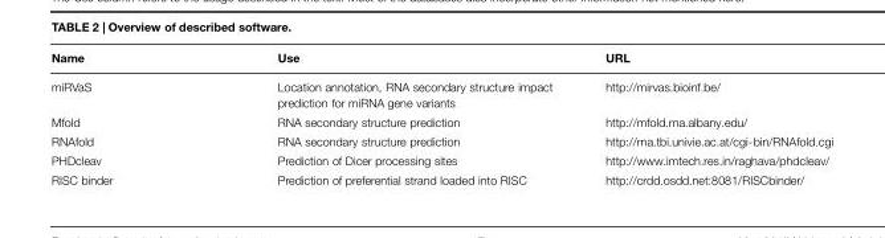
<table><thead><tr><td>Name</td><td>Use</td><td>URL</td></tr></thead><tbody><tr><td>miRVaS</td><td>Location annotation, RNA secondary structure impact prediction for miRNA gene variants</td><td>http://mirvas.bioinf.be/</td></tr><tr><td>Mfold</td><td>RNA secondary structure prediction</td><td>http://mfold.rna.albany.edu/</td></tr><tr><td>RNAfold</td><td>RNA secondary structure prediction</td><td>http://rna.tbi.univie.ac.at/cgi-bin/RNAfold.cgi</td></tr><tr><td>PHDcleav</td><td>Prediction of Dicer processing sites</td><td>http://www.imtech.res.in/raghava/phdcleav/</td></tr><tr><td>RISC binder</td><td>Prediction of preferential strand loaded into RISC</td><td>http://crdd.osdd.net:8081/RISCbinder/</td></tr></tbody></table>